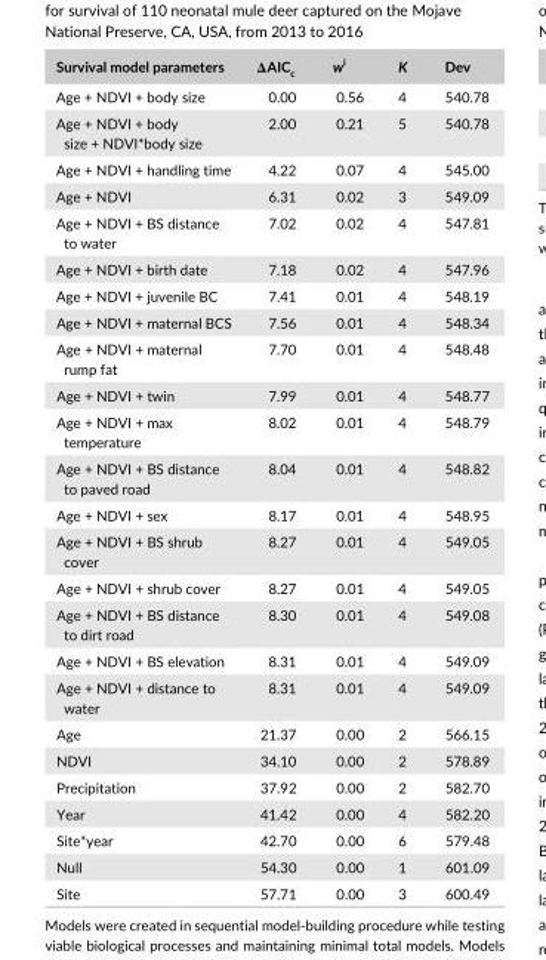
<table><thead><tr><td>Survival model parameters</td><td>ΔAIC<sub>c</sub></td><td>w<sup>i</sup></td><td>K</td><td>Dev</td></tr></thead><tbody><tr><td>Age + NDVI + body size</td><td>0.00</td><td>0.56</td><td>4</td><td>540.78</td></tr><tr><td>Age + NDVI + body size + NDVI*body size</td><td>2.00</td><td>0.21</td><td>5</td><td>540.78</td></tr><tr><td>Age + NDVI + handling time</td><td>4.22</td><td>0.07</td><td>4</td><td>545.00</td></tr><tr><td>Age + NDVI</td><td>6.31</td><td>0.02</td><td>3</td><td>549.09</td></tr><tr><td>Age + NDVI + BS distance to water</td><td>7.02</td><td>0.02</td><td>4</td><td>547.81</td></tr><tr><td>Age + NDVI + birth date</td><td>7.18</td><td>0.02</td><td>4</td><td>547.96</td></tr><tr><td>Age + NDVI + juvenile BC</td><td>7.41</td><td>0.01</td><td>4</td><td>548.19</td></tr><tr><td>Age + NDVI + maternal BCS</td><td>7.56</td><td>0.01</td><td>4</td><td>548.34</td></tr><tr><td>Age + NDVI + maternal rump fat</td><td>7.70</td><td>0.01</td><td>4</td><td>548.48</td></tr><tr><td>Age + NDVI + twin</td><td>7.99</td><td>0.01</td><td>4</td><td>548.77</td></tr><tr><td>Age + NDVI + max temperature</td><td>8.02</td><td>0.01</td><td>4</td><td>548.79</td></tr><tr><td>Age + NDVI + BS distance to paved road</td><td>8.04</td><td>0.01</td><td>4</td><td>548.82</td></tr><tr><td>Age + NDVI + sex</td><td>8.17</td><td>0.01</td><td>4</td><td>548.95</td></tr><tr><td>Age + NDVI + BS shrub cover</td><td>8.27</td><td>0.01</td><td>4</td><td>549.05</td></tr><tr><td>Age + NDVI + shrub cover</td><td>8.27</td><td>0.01</td><td>4</td><td>549.05</td></tr><tr><td>Age + NDVI + BS distance to dirt road</td><td>8.30</td><td>0.01</td><td>4</td><td>549.08</td></tr><tr><td>Age + NDVI + BS elevation</td><td>8.31</td><td>0.01</td><td>4</td><td>549.09</td></tr><tr><td>Age + NDVI + distance to water</td><td>8.31</td><td>0.01</td><td>4</td><td>549.09</td></tr><tr><td>Age</td><td>21.37</td><td>0.00</td><td>2</td><td>566.15</td></tr><tr><td>NDVI</td><td>34.10</td><td>0.00</td><td>2</td><td>578.89</td></tr><tr><td>Precipitation</td><td>37.92</td><td>0.00</td><td>2</td><td>582.70</td></tr><tr><td>Year</td><td>41.42</td><td>0.00</td><td>4</td><td>582.20</td></tr><tr><td>Site*year</td><td>42.70</td><td>0.00</td><td>6</td><td>579.48</td></tr><tr><td>Null</td><td>54.30</td><td>0.00</td><td>1</td><td>601.09</td></tr><tr><td>Site</td><td>57.71</td><td>0.00</td><td>3</td><td>600.49</td></tr></tbody></table>